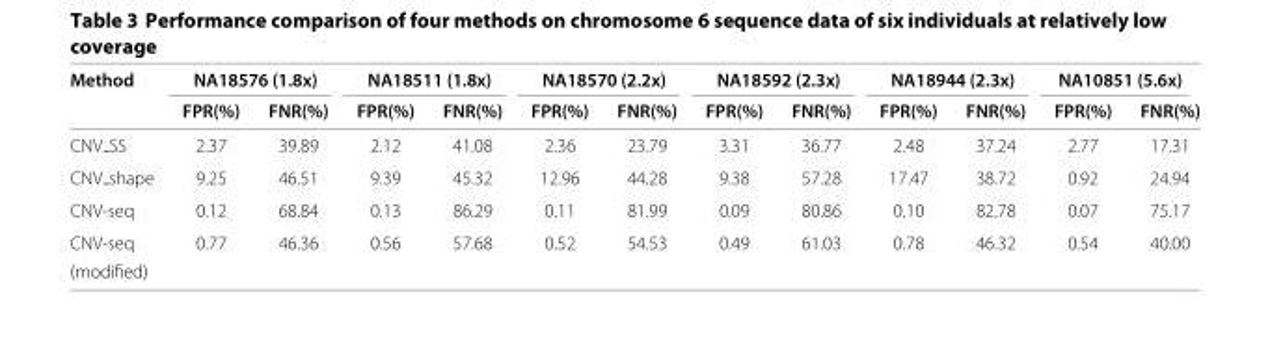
<table><thead><tr><td rowspan="2">Method</td><td colspan="2">NA18576 (1.8x)</td><td colspan="2">NA18511 (1.8x)</td><td colspan="2">NA18570 (2.2x)</td><td colspan="2">NA18592 (2.3x)</td><td colspan="2">NA18944 (2.3x)</td><td colspan="2">NA10851 (5.6x)</td></tr><tr><td>FPR(%)</td><td>FNR(%)</td><td>FPR(%)</td><td>FNR(%)</td><td>FPR(%)</td><td>FNR(%)</td><td>FPR(%)</td><td>FNR(%)</td><td>FPR(%)</td><td>FNR(%)</td><td>FPR(%)</td><td>FNR(%)</td></tr></thead><tbody><tr><td>CNV SS</td><td>2.37</td><td>39.89</td><td>2.12</td><td>41.08</td><td>2.36</td><td>23.79</td><td>3.31</td><td>36.77</td><td>2.48</td><td>37.24</td><td>2.77</td><td>17.31</td></tr><tr><td>CNV shape</td><td>9.25</td><td>46.51</td><td>9.39</td><td>45.32</td><td>12.96</td><td>44.28</td><td>9.38</td><td>57.28</td><td>17.47</td><td>38.72</td><td>0.92</td><td>24.94</td></tr><tr><td>CNV-seq</td><td>0.12</td><td>68.84</td><td>0.13</td><td>86.29</td><td>0.11</td><td>81.99</td><td>0.09</td><td>80.86</td><td>0.10</td><td>82.78</td><td>0.07</td><td>75.17</td></tr><tr><td>CNV-seq</td><td>0.77</td><td>46.36</td><td>0.56</td><td>57.68</td><td>0.52</td><td>54.53</td><td>0.49</td><td>61.03</td><td>0.78</td><td>46.32</td><td>0.54</td><td>40.00</td></tr><tr><td>(modified)</td><td></td><td></td><td></td><td></td><td></td><td></td><td></td><td></td><td></td><td></td><td></td><td></td></tr></tbody></table>